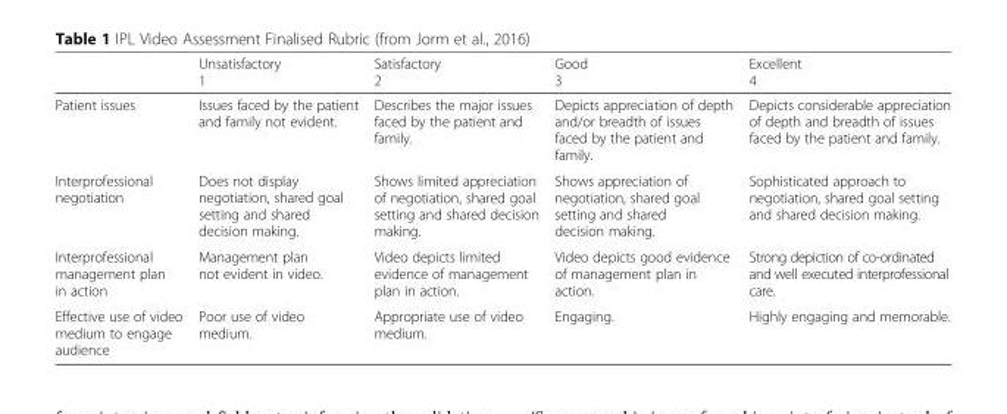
<table><thead><tr><td></td><td>Unsatisfactory 1</td><td>Satisfactory 2</td><td>Good 3</td><td>Excellent 4</td></tr></thead><tbody><tr><td>Patient issues</td><td>Issues faced by the patient and family not evident.</td><td>Describes the major issues faced by the patient and family.</td><td>Depicts appreciation of depth and/or breadth of issues faced by the patient and family.</td><td>Depicts considerable appreciation of depth and breadth of issues faced by the patient and family.</td></tr><tr><td>Interprofessional negotiation</td><td>Does not display negotiation, shared goal setting and shared decision making.</td><td>Shows limited appreciation of negotiation, shared goal setting and shared decision making.</td><td>Shows appreciation of negotiation, shared goal setting and shared decision making.</td><td>Sophisticated approach to negotiation, shared goal setting and shared decision making.</td></tr><tr><td>Interprofessional management plan in action</td><td>Management plan not evident in video.</td><td>Video depicts limited evidence of management plan in action.</td><td>Video depicts good evidence of management plan in action.</td><td>Strong depiction of co-ordinated and well executed interprofessional care.</td></tr><tr><td>Effective use of video medium to engage audience</td><td>Poor use of video medium.</td><td>Appropriate use of video medium.</td><td>Engaging.</td><td>Highly engaging and memorable.</td></tr></tbody></table>